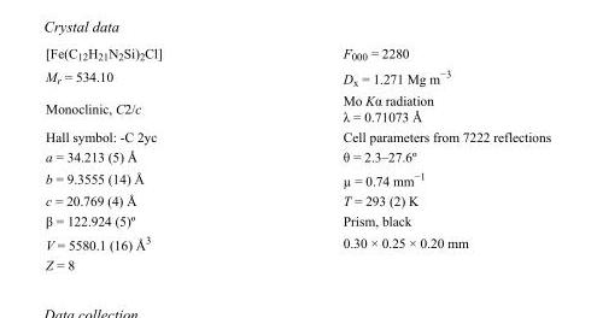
<table><tbody><tr><td>[Fe(C<sub>12</sub>H<sub>21</sub>N<sub>2</sub>Si)<sub>2</sub>Cl]</td><td>F<sub>000</sub> = 2280</td></tr><tr><td>M<sub>r</sub> = 534.10</td><td>D<sub>x</sub> = 1.271 Mg m<sup>−3</sup></td></tr><tr><td>Monoclinic, C2/c</td><td>Mo Kα radiation λ = 0.71073 Å</td></tr><tr><td>Hall symbol: -C 2yc</td><td>Cell parameters from 7222 reflections</td></tr><tr><td>a = 34.213 (5) Å</td><td>θ = 2.3–27.6º</td></tr><tr><td>b = 9.3555 (14) Å</td><td>µ = 0.74 mm<sup>−1</sup></td></tr><tr><td>c = 20.769 (4) Å</td><td>T = 293 (2) K</td></tr><tr><td>β = 122.924 (5)º</td><td>Prism, black</td></tr><tr><td>V = 5580.1 (16) Å<sup>3</sup></td><td>0.30 × 0.25 × 0.20 mm</td></tr><tr><td>Z = 8</td><td></td></tr></tbody></table>